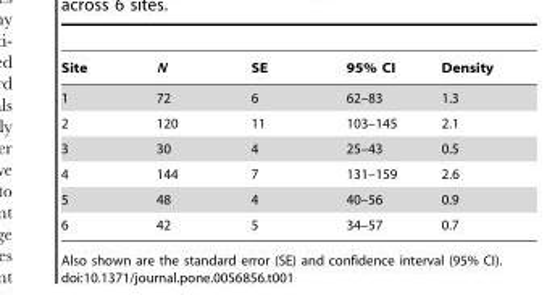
<table><thead><tr><td>Site</td><td>N</td><td>SE</td><td>95% CI</td><td>Density</td></tr></thead><tbody><tr><td>1</td><td>72</td><td>6</td><td>62–83</td><td>1.3</td></tr><tr><td>2</td><td>120</td><td>11</td><td>103–145</td><td>2.1</td></tr><tr><td>3</td><td>30</td><td>4</td><td>25–43</td><td>0.5</td></tr><tr><td>4</td><td>144</td><td>7</td><td>131–159</td><td>2.6</td></tr><tr><td>5</td><td>48</td><td>4</td><td>40–56</td><td>0.9</td></tr><tr><td>6</td><td>42</td><td>5</td><td>34–57</td><td>0.7</td></tr></tbody></table>